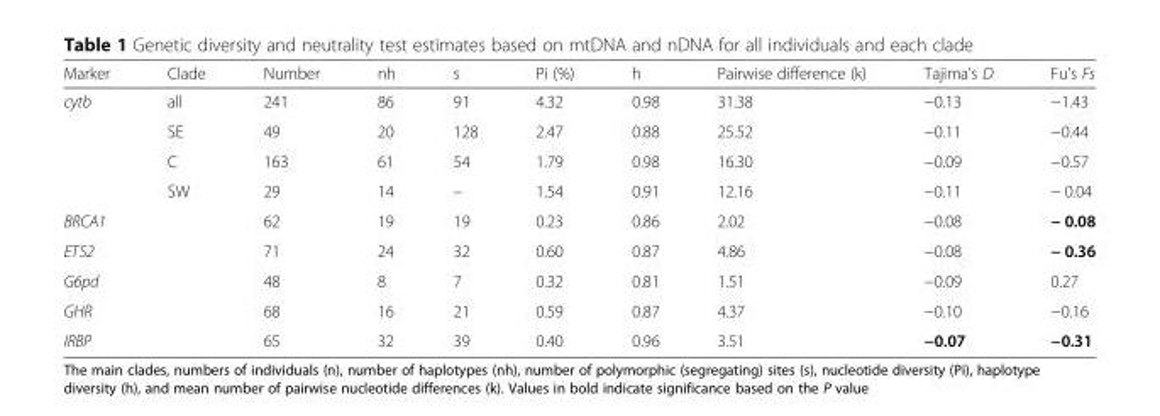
<table><thead><tr><td>Marker</td><td>Clade</td><td>Number</td><td>nh</td><td>s</td><td>Pi (%)</td><td>h</td><td>Pairwise difference (k)</td><td>Tajima’s D</td><td>Fu’s Fs</td></tr></thead><tbody><tr><td rowspan="4">cytb</td><td>all</td><td>241</td><td>86</td><td>91</td><td>4.32</td><td>0.98</td><td>31.38</td><td>−0.13</td><td>−1.43</td></tr><tr><td>SE</td><td>49</td><td>20</td><td>128</td><td>2.47</td><td>0.88</td><td>25.52</td><td>−0.11</td><td>−0.44</td></tr><tr><td>C</td><td>163</td><td>61</td><td>54</td><td>1.79</td><td>0.98</td><td>16.30</td><td>−0.09</td><td>−0.57</td></tr><tr><td>SW</td><td>29</td><td>14</td><td>–</td><td>1.54</td><td>0.91</td><td>12.16</td><td>−0.11</td><td>− 0.04</td></tr><tr><td>BRCA1</td><td></td><td>62</td><td>19</td><td>19</td><td>0.23</td><td>0.86</td><td>2.02</td><td>−0.08</td><td>− 0.08</td></tr><tr><td>ETS2</td><td></td><td>71</td><td>24</td><td>32</td><td>0.60</td><td>0.87</td><td>4.86</td><td>−0.08</td><td>− 0.36</td></tr><tr><td>G6pd</td><td></td><td>48</td><td>8</td><td>7</td><td>0.32</td><td>0.81</td><td>1.51</td><td>−0.09</td><td>0.27</td></tr><tr><td>GHR</td><td></td><td>68</td><td>16</td><td>21</td><td>0.59</td><td>0.87</td><td>4.37</td><td>−0.10</td><td>−0.16</td></tr><tr><td>IRBP</td><td></td><td>65</td><td>32</td><td>39</td><td>0.40</td><td>0.96</td><td>3.51</td><td>−0.07</td><td>−0.31</td></tr></tbody></table>